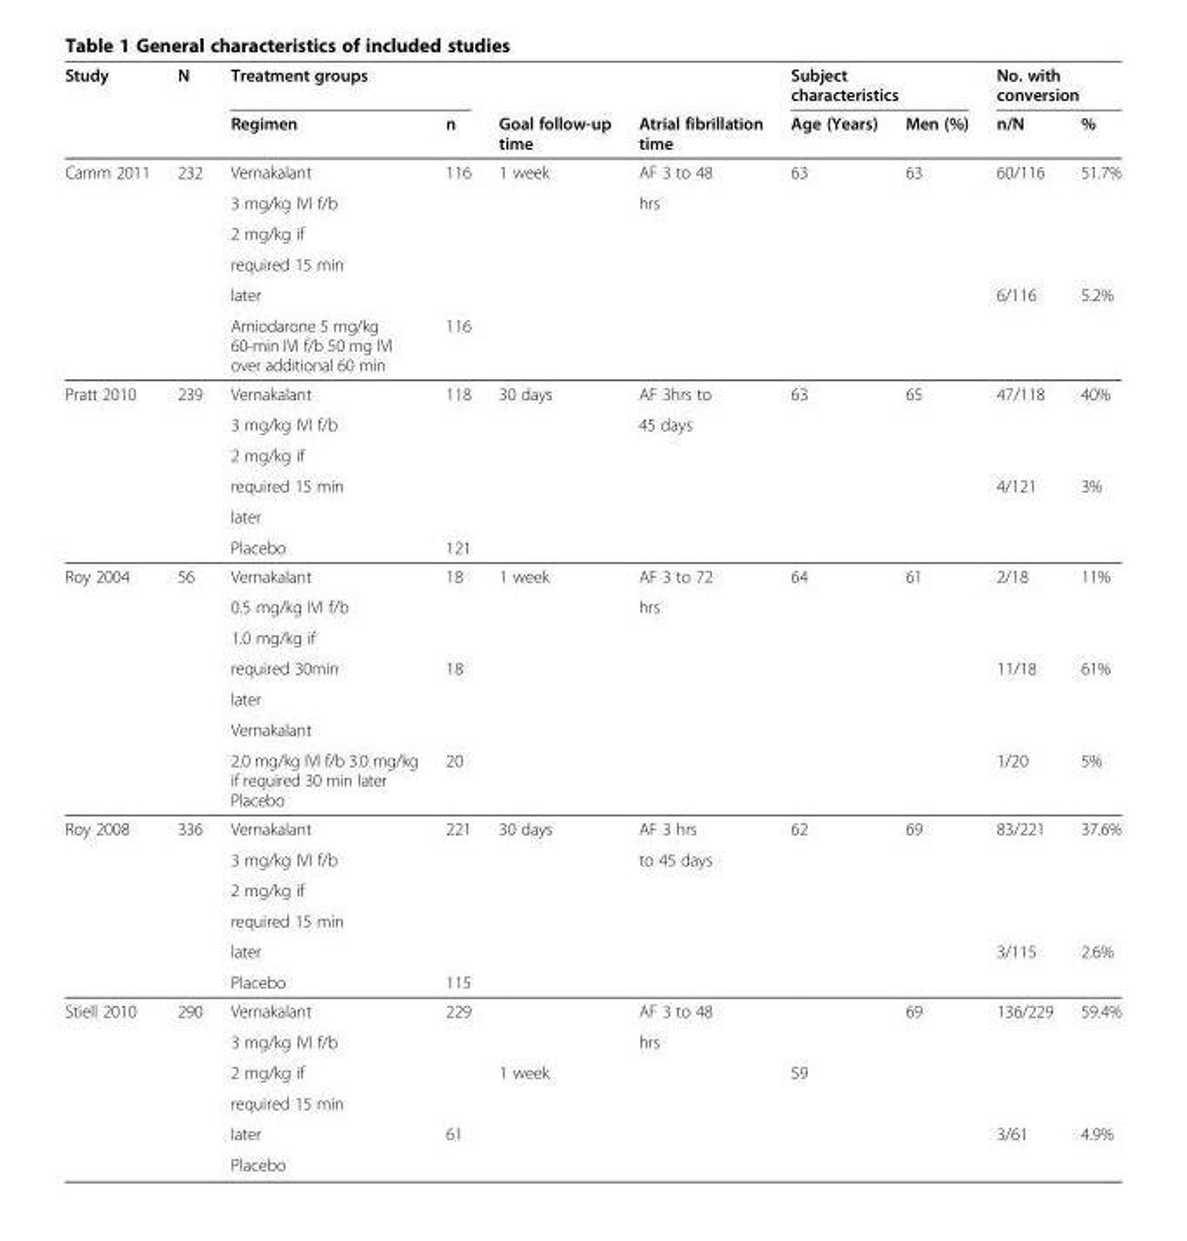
<table><thead><tr><td rowspan="2">Study</td><td rowspan="2">N</td><td colspan="2">Treatment groups</td><td rowspan="2">Goal follow-up time</td><td rowspan="2">Atrial fibrillation time</td><td colspan="2">Subject characteristics</td><td colspan="2">No. with conversion</td></tr><tr><td>Regimen</td><td>n</td><td>Age (Years)</td><td>Men (%)</td><td>n/N</td><td>%</td></tr></thead><tbody><tr><td rowspan="6">Camm 2011</td><td>232</td><td>Vernakalant</td><td>116</td><td>1 week</td><td>AF 3 to 48</td><td>63</td><td>63</td><td>60/116</td><td>51.7%</td></tr><tr><td></td><td>3 mg/kg IVI f/b</td><td></td><td></td><td>hrs</td><td></td><td></td><td></td><td></td></tr><tr><td></td><td>2 mg/kg if</td><td></td><td></td><td></td><td></td><td></td><td></td><td></td></tr><tr><td></td><td>required 15 min</td><td></td><td></td><td></td><td></td><td></td><td></td><td></td></tr><tr><td></td><td>later</td><td></td><td></td><td></td><td></td><td></td><td>6/116</td><td>5.2%</td></tr><tr><td></td><td>Amiodarone 5 mg/kg 60-min IVI f/b 50 mg IVI over additional 60 min</td><td>116</td><td></td><td></td><td></td><td></td><td></td><td></td></tr><tr><td rowspan="6">Pratt 2010</td><td>239</td><td>Vernakalant</td><td>118</td><td>30 days</td><td>AF 3hrs to</td><td>63</td><td>65</td><td>47/118</td><td>40%</td></tr><tr><td></td><td>3 mg/kg IVI f/b</td><td></td><td></td><td>45 days</td><td></td><td></td><td></td><td></td></tr><tr><td></td><td>2 mg/kg if</td><td></td><td></td><td></td><td></td><td></td><td></td><td></td></tr><tr><td></td><td>required 15 min</td><td></td><td></td><td></td><td></td><td></td><td>4/121</td><td>3%</td></tr><tr><td></td><td>later</td><td></td><td></td><td></td><td></td><td></td><td></td><td></td></tr><tr><td></td><td>Placebo</td><td>121</td><td></td><td></td><td></td><td></td><td></td><td></td></tr><tr><td rowspan="7">Roy 2004</td><td>56</td><td>Vernakalant</td><td>18</td><td>1 week</td><td>AF 3 to 72</td><td>64</td><td>61</td><td>2/18</td><td>11%</td></tr><tr><td></td><td>0.5 mg/kg IVI f/b</td><td></td><td></td><td>hrs</td><td></td><td></td><td></td><td></td></tr><tr><td></td><td>1.0 mg/kg if</td><td></td><td></td><td></td><td></td><td></td><td></td><td></td></tr><tr><td></td><td>required 30min</td><td>18</td><td></td><td></td><td></td><td></td><td>11/18</td><td>61%</td></tr><tr><td></td><td>later</td><td></td><td></td><td></td><td></td><td></td><td></td><td></td></tr><tr><td></td><td>Vernakalant</td><td></td><td></td><td></td><td></td><td></td><td></td><td></td></tr><tr><td></td><td>2.0 mg/kg IVI f/b 3.0 mg/kg if required 30 min later Placebo</td><td>20</td><td></td><td></td><td></td><td></td><td>1/20</td><td>5%</td></tr><tr><td rowspan="6">Roy 2008</td><td>336</td><td>Vernakalant</td><td>221</td><td>30 days</td><td>AF 3 hrs</td><td>62</td><td>69</td><td>83/221</td><td>37.6%</td></tr><tr><td></td><td>3 mg/kg IVI f/b</td><td></td><td></td><td>to 45 days</td><td></td><td></td><td></td><td></td></tr><tr><td></td><td>2 mg/kg if</td><td></td><td></td><td></td><td></td><td></td><td></td><td></td></tr><tr><td></td><td>required 15 min</td><td></td><td></td><td></td><td></td><td></td><td></td><td></td></tr><tr><td></td><td>later</td><td></td><td></td><td></td><td></td><td></td><td>3/115</td><td>2.6%</td></tr><tr><td></td><td>Placebo</td><td>115</td><td></td><td></td><td></td><td></td><td></td><td></td></tr><tr><td rowspan="6">Stiell 2010</td><td>290</td><td>Vernakalant</td><td>229</td><td></td><td>AF 3 to 48</td><td></td><td>69</td><td>136/229</td><td>59.4%</td></tr><tr><td></td><td>3 mg/kg IVI f/b</td><td></td><td></td><td>hrs</td><td></td><td></td><td></td><td></td></tr><tr><td></td><td>2 mg/kg if</td><td></td><td>1 week</td><td></td><td>59</td><td></td><td></td><td></td></tr><tr><td></td><td>required 15 min</td><td></td><td></td><td></td><td></td><td></td><td></td><td></td></tr><tr><td></td><td>later</td><td>61</td><td></td><td></td><td></td><td></td><td>3/61</td><td>4.9%</td></tr><tr><td></td><td>Placebo</td><td></td><td></td><td></td><td></td><td></td><td></td><td></td></tr></tbody></table>